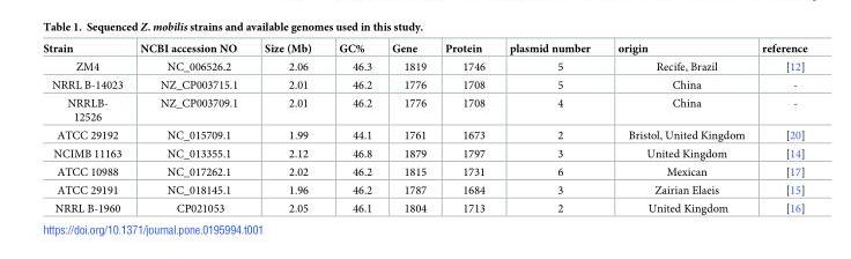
<table><thead><tr><td>Strain</td><td>NCBI accession NO</td><td>Size (Mb)</td><td>GC%</td><td>Gene</td><td>Protein</td><td>plasmid number</td><td>origin</td><td>reference</td></tr></thead><tbody><tr><td>ZM4</td><td>NC_006526.2</td><td>2.06</td><td>46.3</td><td>1819</td><td>1746</td><td>5</td><td>Recife, Brazil</td><td>[12]</td></tr><tr><td>NRRL B-14023</td><td>NZ_CP003715.1</td><td>2.01</td><td>46.2</td><td>1776</td><td>1708</td><td>5</td><td>China</td><td>-</td></tr><tr><td>NRRLB- 12526</td><td>NZ_CP003709.1</td><td>2.01</td><td>46.2</td><td>1776</td><td>1708</td><td>4</td><td>China</td><td>-</td></tr><tr><td>ATCC 29192</td><td>NC_015709.1</td><td>1.99</td><td>44.1</td><td>1761</td><td>1673</td><td>2</td><td>Bristol, United Kingdom</td><td>[20]</td></tr><tr><td>NCIMB 11163</td><td>NC_013355.1</td><td>2.12</td><td>46.8</td><td>1879</td><td>1797</td><td>3</td><td>United Kingdom</td><td>[14]</td></tr><tr><td>ATCC 10988</td><td>NC_017262.1</td><td>2.02</td><td>46.2</td><td>1815</td><td>1731</td><td>6</td><td>Mexican</td><td>[17]</td></tr><tr><td>ATCC 29191</td><td>NC_018145.1</td><td>1.96</td><td>46.2</td><td>1787</td><td>1684</td><td>3</td><td>Zairian Elaeis</td><td>[15]</td></tr><tr><td>NRRL B-1960</td><td>CP021053</td><td>2.05</td><td>46.1</td><td>1804</td><td>1713</td><td>2</td><td>United Kingdom</td><td>[16]</td></tr></tbody></table>